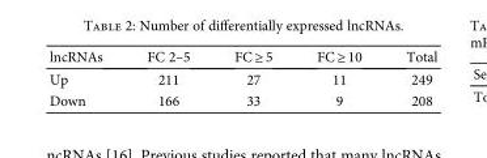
<table><thead><tr><td>lncRNAs</td><td>FC 2–5</td><td>FC ≥ 5</td><td>FC ≥ 10</td><td>Total</td></tr></thead><tbody><tr><td>Up</td><td>211</td><td>27</td><td>11</td><td>249</td></tr><tr><td>Down</td><td>166</td><td>33</td><td>9</td><td>208</td></tr></tbody></table>